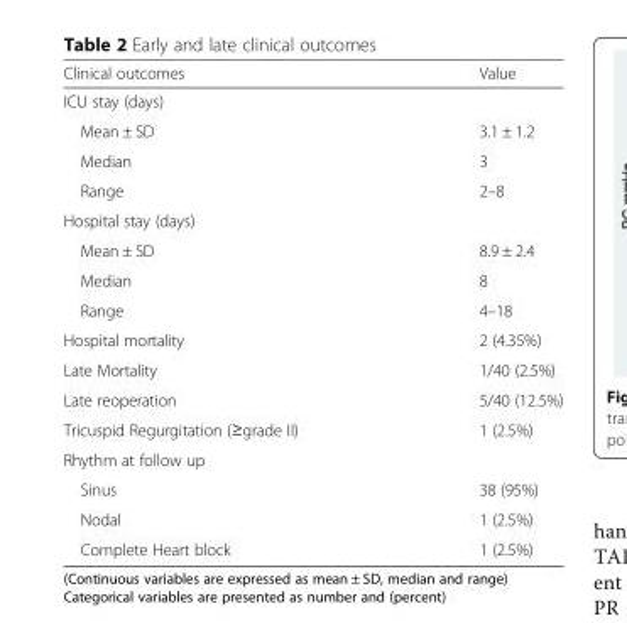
<table><thead><tr><td>Clinical outcomes</td><td>Value</td></tr></thead><tbody><tr><td colspan="2">ICU stay (days)</td></tr><tr><td>Mean ± SD</td><td>3.1 ± 1.2</td></tr><tr><td>Median</td><td>3</td></tr><tr><td>Range</td><td>2–8</td></tr><tr><td colspan="2">Hospital stay (days)</td></tr><tr><td>Mean ± SD</td><td>8.9 ± 2.4</td></tr><tr><td>Median</td><td>8</td></tr><tr><td>Range</td><td>4–18</td></tr><tr><td>Hospital mortality</td><td>2 (4.35%)</td></tr><tr><td>Late Mortality</td><td>1/40 (2.5%)</td></tr><tr><td>Late reoperation</td><td>5/40 (12.5%)</td></tr><tr><td>Tricuspid Regurgitation (≥grade II)</td><td>1 (2.5%)</td></tr><tr><td colspan="2">Rhythm at follow up</td></tr><tr><td>Sinus</td><td>38 (95%)</td></tr><tr><td>Nodal</td><td>1 (2.5%)</td></tr><tr><td>Complete Heart block</td><td>1 (2.5%)</td></tr></tbody></table>